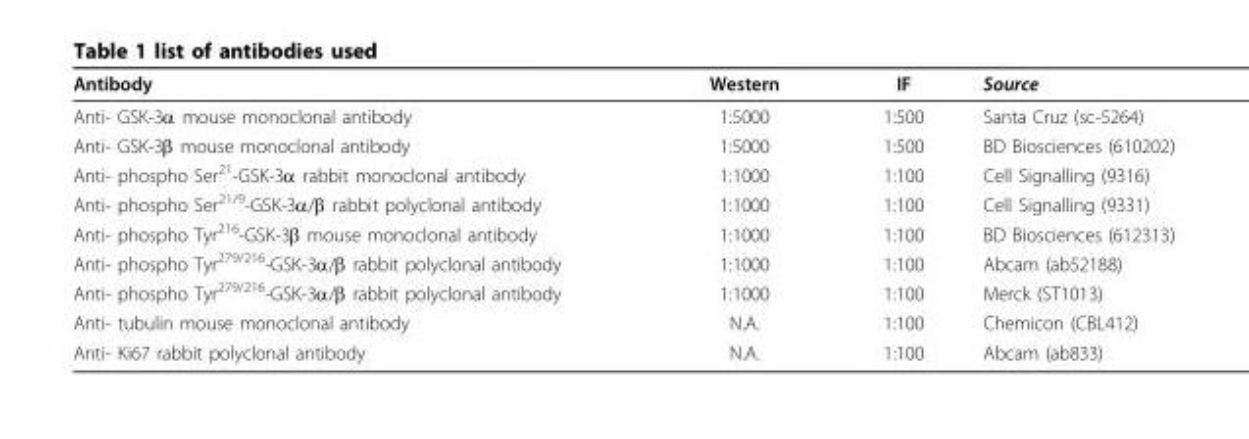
<table><thead><tr><td>Antibody</td><td>Western</td><td>IF</td><td>Source</td></tr></thead><tbody><tr><td>Anti- GSK-3α mouse monoclonal antibody</td><td>1:5000</td><td>1:500</td><td>Santa Cruz (sc-5264)</td></tr><tr><td>Anti- GSK-3β mouse monoclonal antibody</td><td>1:5000</td><td>1:500</td><td>BD Biosciences (610202)</td></tr><tr><td>Anti- phospho Ser<sup>21</sup>-GSK-3α rabbit monoclonal antibody</td><td>1:1000</td><td>1:100</td><td>Cell Signalling (9316)</td></tr><tr><td>Anti- phospho Ser<sup>21/9</sup>-GSK-3α/β rabbit polyclonal antibody</td><td>1:1000</td><td>1:100</td><td>Cell Signalling (9331)</td></tr><tr><td>Anti- phospho Tyr<sup>216</sup>-GSK-3β mouse monoclonal antibody</td><td>1:1000</td><td>1:100</td><td>BD Biosciences (612313)</td></tr><tr><td>Anti- phospho Tyr<sup>279/216</sup>-GSK-3α/β rabbit polyclonal antibody</td><td>1:1000</td><td>1:100</td><td>Abcam (ab52188)</td></tr><tr><td>Anti- phospho Tyr<sup>279/216</sup>-GSK-3α/β rabbit polyclonal antibody</td><td>1:1000</td><td>1:100</td><td>Merck (ST1013)</td></tr><tr><td>Anti- tubulin mouse monoclonal antibody</td><td>N.A.</td><td>1:100</td><td>Chemicon (CBL412)</td></tr><tr><td>Anti- Ki67 rabbit polyclonal antibody</td><td>N.A.</td><td>1:100</td><td>Abcam (ab833)</td></tr></tbody></table>